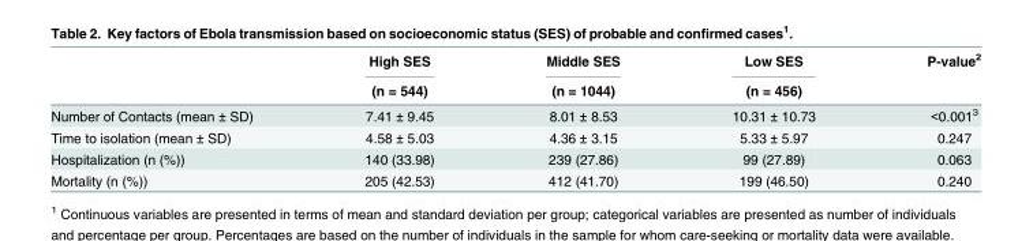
<table><thead><tr><td rowspan="2"></td><td rowspan="2">High SES (n = 544)</td><td rowspan="2">Middle SES (n = 1044)</td><td rowspan="2">Low SES (n = 456)</td><td rowspan="2">P-value<sup>2</sup></td></tr><tr></tr></thead><tbody><tr><td>Number of Contacts (mean ± SD)</td><td>7.41 ± 9.45</td><td>8.01 ± 8.53</td><td>10.31 ± 10.73</td><td>&lt;0.001<sup>3</sup></td></tr><tr><td>Time to isolation (mean ± SD)</td><td>4.58 ± 5.03</td><td>4.36 ± 3.15</td><td>5.33 ± 5.97</td><td>0.247</td></tr><tr><td>Hospitalization (n (%))</td><td>140 (33.98)</td><td>239 (27.86)</td><td>99 (27.89)</td><td>0.063</td></tr><tr><td>Mortality (n (%))</td><td>205 (42.53)</td><td>412 (41.70)</td><td>199 (46.50)</td><td>0.240</td></tr></tbody></table>